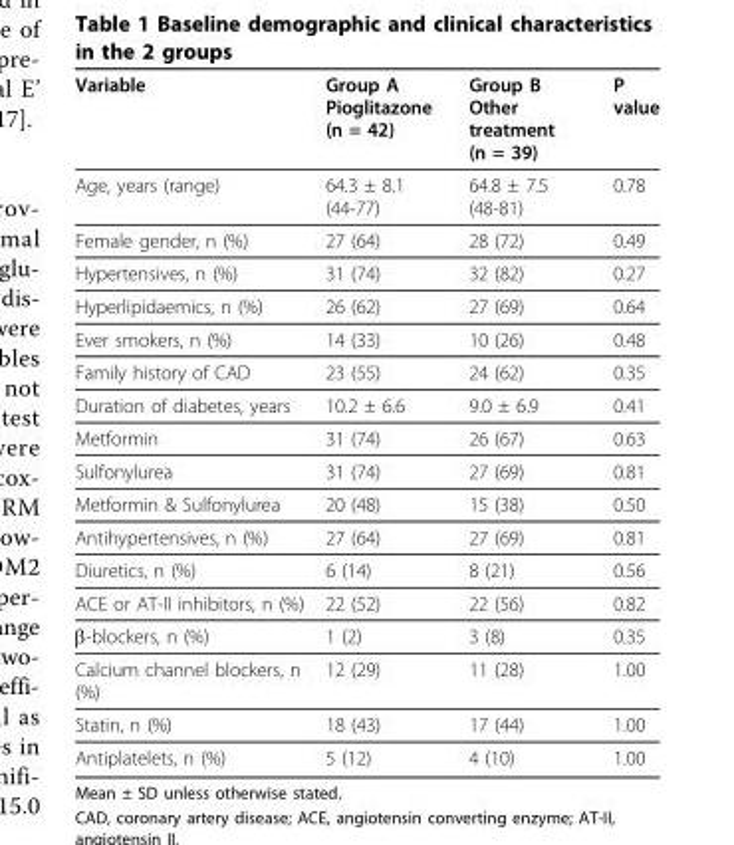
<table><thead><tr><td>Variable</td><td>Group A Pioglitazone (n = 42)</td><td>Group B Other treatment (n = 39)</td><td>P value</td></tr></thead><tbody><tr><td>Age, years (range)</td><td>64.3 ± 8.1 (44-77)</td><td>64.8 ± 7.5 (48-81)</td><td>0.78</td></tr><tr><td>Female gender, n (%)</td><td>27 (64)</td><td>28 (72)</td><td>0.49</td></tr><tr><td>Hypertensives, n (%)</td><td>31 (74)</td><td>32 (82)</td><td>0.27</td></tr><tr><td>Hyperlipidaemics, n (%)</td><td>26 (62)</td><td>27 (69)</td><td>0.64</td></tr><tr><td>Ever smokers, n (%)</td><td>14 (33)</td><td>10 (26)</td><td>0.48</td></tr><tr><td>Family history of CAD</td><td>23 (55)</td><td>24 (62)</td><td>0.35</td></tr><tr><td>Duration of diabetes, years</td><td>10.2 ± 6.6</td><td>9.0 ± 6.9</td><td>0.41</td></tr><tr><td>Metformin</td><td>31 (74)</td><td>26 (67)</td><td>0.63</td></tr><tr><td>Sulfonylurea</td><td>31 (74)</td><td>27 (69)</td><td>0.81</td></tr><tr><td>Metformin &amp; Sulfonylurea</td><td>20 (48)</td><td>15 (38)</td><td>0.50</td></tr><tr><td>Antihypertensives, n (%)</td><td>27 (64)</td><td>27 (69)</td><td>0.81</td></tr><tr><td>Diuretics, n (%)</td><td>6 (14)</td><td>8 (21)</td><td>0.56</td></tr><tr><td>ACE or AT-II inhibitors, n (%)</td><td>22 (52)</td><td>22 (56)</td><td>0.82</td></tr><tr><td>β-blockers, n (%)</td><td>1 (2)</td><td>3 (8)</td><td>0.35</td></tr><tr><td>Calcium channel blockers, n (%)</td><td>12 (29)</td><td>11 (28)</td><td>1.00</td></tr><tr><td>Statin, n (%)</td><td>18 (43)</td><td>17 (44)</td><td>1.00</td></tr><tr><td>Antiplatelets, n (%)</td><td>5 (12)</td><td>4 (10)</td><td>1.00</td></tr></tbody></table>